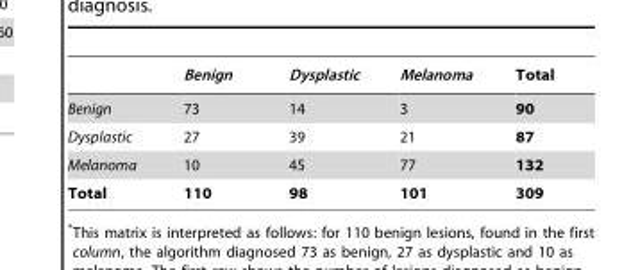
<table><thead><tr><td></td><td>Benign</td><td>Dysplastic</td><td>Melanoma</td><td>Total</td></tr></thead><tbody><tr><td>Benign</td><td>73</td><td>14</td><td>3</td><td>90</td></tr><tr><td>Dysplastic</td><td>27</td><td>39</td><td>21</td><td>87</td></tr><tr><td>Melanoma</td><td>10</td><td>45</td><td>77</td><td>132</td></tr><tr><td>Total</td><td>110</td><td>98</td><td>101</td><td>309</td></tr></tbody></table>